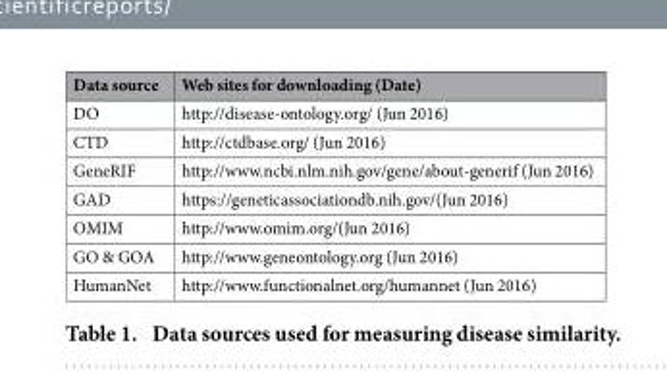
<table><thead><tr><td>Data source</td><td>Web sites for downloading (Date)</td></tr></thead><tbody><tr><td>DO</td><td>http://disease-ontology.org/ (Jun 2016)</td></tr><tr><td>CTD</td><td>http://ctdbase.org/ (Jun 2016)</td></tr><tr><td>GeneRIF</td><td>http://www.ncbi.nlm.nih.gov/gene/about-generif (Jun 2016)</td></tr><tr><td>GAD</td><td>https://geneticassociationdb.nih.gov/(Jun 2016)</td></tr><tr><td>OMIM</td><td>http://www.omim.org/(Jun 2016)</td></tr><tr><td>GO &amp; GOA</td><td>http://www.geneontology.org (Jun 2016)</td></tr><tr><td>HumanNet</td><td>http://www.functionalnet.org/humannet (Jun 2016)</td></tr></tbody></table>